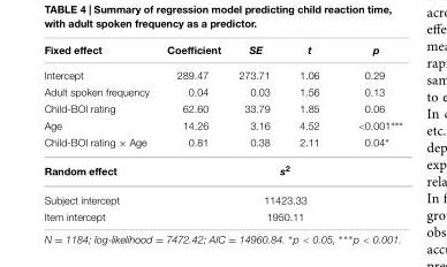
<table><thead><tr><td>Fixed effect</td><td>Coefficient</td><td>SE</td><td>t</td><td>p</td></tr></thead><tbody><tr><td>Intercept</td><td>289.47</td><td>273.71</td><td>1.06</td><td>0.29</td></tr><tr><td>Adult spoken frequency</td><td>0.04</td><td>0.03</td><td>1.56</td><td>0.13</td></tr><tr><td>Child-BOI rating</td><td>62.60</td><td>33.79</td><td>1.85</td><td>0.06</td></tr><tr><td>Age</td><td>14.26</td><td>3.16</td><td>4.52</td><td>&lt;0.001∗∗∗</td></tr><tr><td>Child-BOI rating × Age</td><td>0.81</td><td>0.38</td><td>2.11</td><td>0.04∗</td></tr><tr><td>Random effect</td><td colspan="4">s<sup>2</sup></td></tr><tr><td>Subject intercept</td><td colspan="4">11423.33</td></tr><tr><td>Item intercept</td><td colspan="4">1950.11</td></tr></tbody></table>